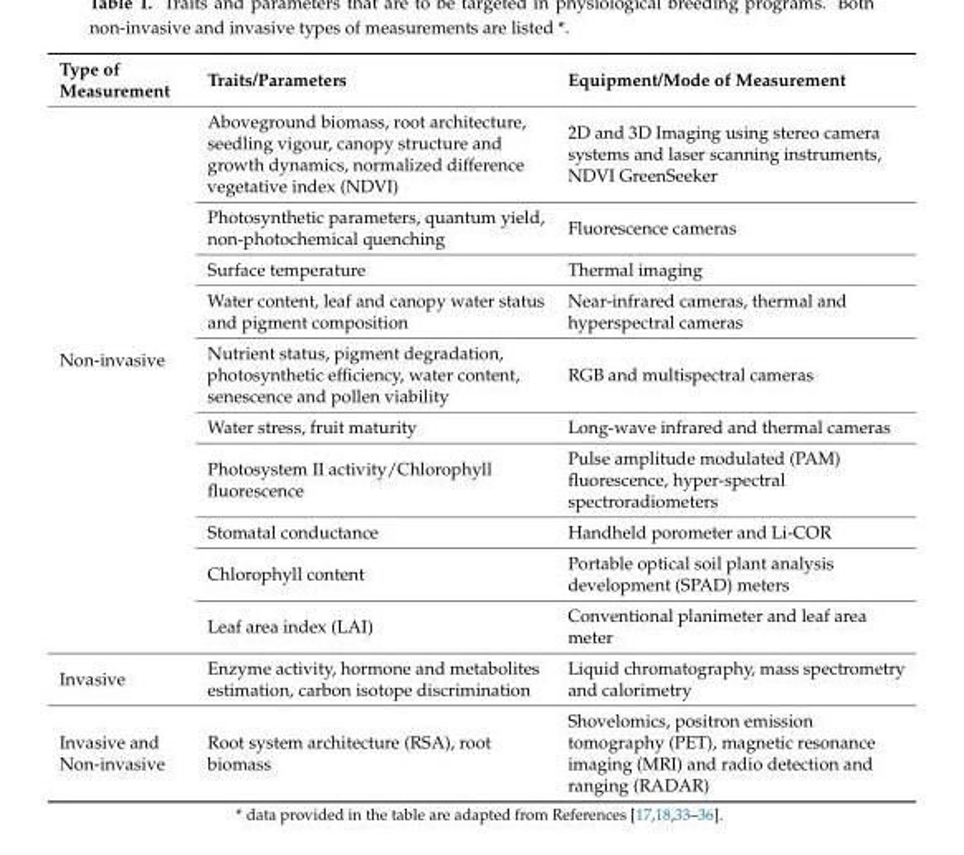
<table><thead><tr><td>Type of Measurement</td><td>Traits/Parameters</td><td>Equipment/Mode of Measurement</td></tr></thead><tbody><tr><td rowspan="10">Non-invasive</td><td>Aboveground biomass, root architecture, seedling vigour, canopy structure and growth dynamics, normalized difference vegetative index (NDVI)</td><td>2D and 3D Imaging using stereo camera systems and laser scanning instruments, NDVI GreenSeeker</td></tr><tr><td>Photosynthetic parameters, quantum yield, non-photochemical quenching</td><td>Fluorescence cameras</td></tr><tr><td>Surface temperature</td><td>Thermal imaging</td></tr><tr><td>Water content, leaf and canopy water status and pigment composition</td><td>Near-infrared cameras, thermal and hyperspectral cameras</td></tr><tr><td>Nutrient status, pigment degradation, photosynthetic efficiency, water content, senescence and pollen viability</td><td>RGB and multispectral cameras</td></tr><tr><td>Water stress, fruit maturity</td><td>Long-wave infrared and thermal cameras</td></tr><tr><td>Photosystem II activity/Chlorophyll fluorescence</td><td>Pulse amplitude modulated (PAM) fluorescence, hyper-spectral spectroradiometers</td></tr><tr><td>Stomatal conductance</td><td>Handheld porometer and Li-COR</td></tr><tr><td>Chlorophyll content</td><td>Portable optical soil plant analysis development (SPAD) meters</td></tr><tr><td>Leaf area index (LAI)</td><td>Conventional planimeter and leaf area meter</td></tr><tr><td>Invasive</td><td>Enzyme activity, hormone and metabolites estimation, carbon isotope discrimination</td><td>Liquid chromatography, mass spectrometry and calorimetry</td></tr><tr><td>Invasive and Non-invasive</td><td>Root system architecture (RSA), root biomass</td><td>Shovelomics, positron emission tomography (PET), magnetic resonance imaging (MRI) and radio detection and ranging (RADAR)</td></tr></tbody></table>